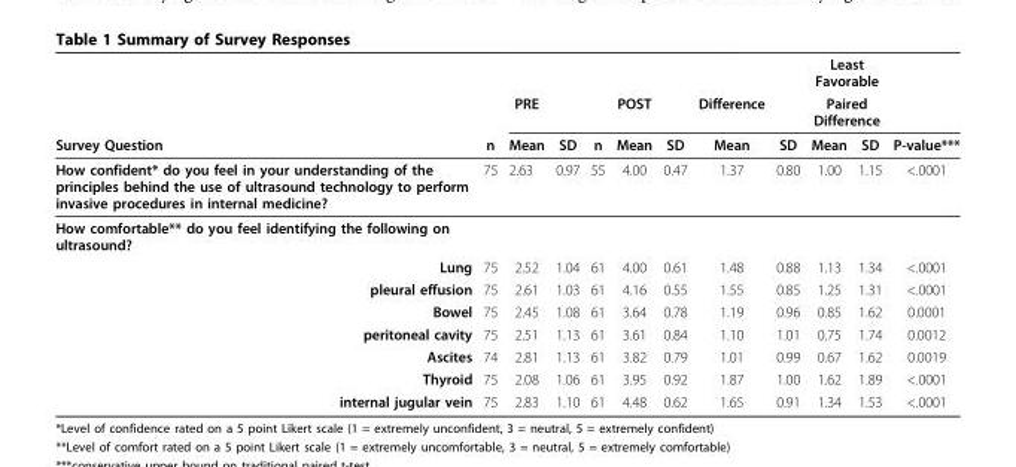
<table><thead><tr><td rowspan="3">Survey Question</td><td rowspan="3">n</td><td rowspan="3">PRE Mean</td><td rowspan="3">SD</td><td rowspan="3">n</td><td rowspan="3">POST Mean</td><td rowspan="3">SD</td><td rowspan="3">Difference Mean</td><td rowspan="3">SD</td><td rowspan="2" colspan="2">Least Favorable Paired Difference</td><td rowspan="3">P-value***</td></tr><tr></tr><tr><td>Mean</td><td>SD</td></tr></thead><tbody><tr><td>How confident* do you feel in your understanding of the principles behind the use of ultrasound technology to perform invasive procedures in internal medicine?</td><td>75</td><td>2.63</td><td>0.97</td><td>55</td><td>4.00</td><td>0.47</td><td>1.37</td><td>0.80</td><td>1.00</td><td>1.15</td><td>&lt;.0001</td></tr><tr><td colspan="12">How comfortable** do you feel identifying the following on ultrasound?</td></tr><tr><td>Lung</td><td>75</td><td>2.52</td><td>1.04</td><td>61</td><td>4.00</td><td>0.61</td><td>1.48</td><td>0.88</td><td>1.13</td><td>1.34</td><td>&lt;.0001</td></tr><tr><td>pleural effusion</td><td>75</td><td>2.61</td><td>1.03</td><td>61</td><td>4.16</td><td>0.55</td><td>1.55</td><td>0.85</td><td>1.25</td><td>1.31</td><td>&lt;.0001</td></tr><tr><td>Bowel</td><td>75</td><td>2.45</td><td>1.08</td><td>61</td><td>3.64</td><td>0.78</td><td>1.19</td><td>0.96</td><td>0.85</td><td>1.62</td><td>0.0001</td></tr><tr><td>peritoneal cavity</td><td>75</td><td>2.51</td><td>1.13</td><td>61</td><td>3.61</td><td>0.84</td><td>1.10</td><td>1.01</td><td>0.75</td><td>1.74</td><td>0.0012</td></tr><tr><td>Ascites</td><td>74</td><td>2.81</td><td>1.13</td><td>61</td><td>3.82</td><td>0.79</td><td>1.01</td><td>0.99</td><td>0.67</td><td>1.62</td><td>0.0019</td></tr><tr><td>Thyroid</td><td>75</td><td>2.08</td><td>1.06</td><td>61</td><td>3.95</td><td>0.92</td><td>1.87</td><td>1.00</td><td>1.62</td><td>1.89</td><td>&lt;.0001</td></tr><tr><td>internal jugular vein</td><td>75</td><td>2.83</td><td>1.10</td><td>61</td><td>4.48</td><td>0.62</td><td>1.65</td><td>0.91</td><td>1.34</td><td>1.53</td><td>&lt;.0001</td></tr></tbody></table>